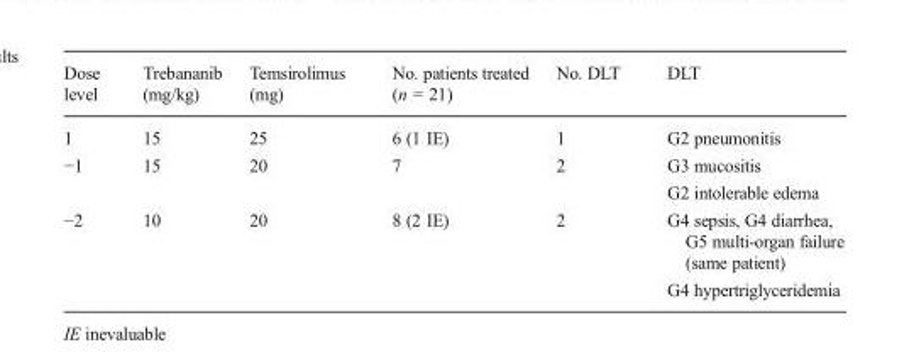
<table><thead><tr><td>Dose level</td><td>Trebananib (mg/kg)</td><td>Temsirolimus (mg)</td><td>No. patients treated (n = 21)</td><td>No. DLT</td><td>DLT</td></tr></thead><tbody><tr><td>1</td><td>15</td><td>25</td><td>6 (1 IE)</td><td>1</td><td>G2 pneumonitis</td></tr><tr><td>−1</td><td>15</td><td>20</td><td>7</td><td>2</td><td>G3 mucositis G2 intolerable edema</td></tr><tr><td>−2</td><td>10</td><td>20</td><td>8 (2 IE)</td><td>2</td><td>G4 sepsis, G4 diarrhea, G5 multi-organ failure (same patient) G4 hypertriglyceridemia</td></tr></tbody></table>